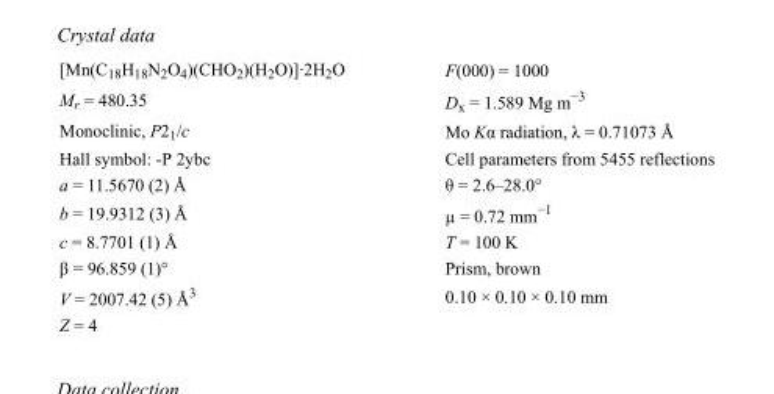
<table><tbody><tr><td>[Mn(C<sub>18</sub>H<sub>18</sub>N<sub>2</sub>O<sub>4</sub>)(CHO<sub>2</sub>)(H<sub>2</sub>O)]·2H<sub>2</sub>O</td><td>F(000) = 1000</td></tr><tr><td>M<sub>r</sub> = 480.35</td><td>D<sub>x</sub> = 1.589 Mg m<sup>−3</sup></td></tr><tr><td>Monoclinic, P2<sub>1</sub>/c</td><td>Mo Kα radiation, λ = 0.71073 Å</td></tr><tr><td>Hall symbol: -P 2ybc</td><td>Cell parameters from 5455 reflections</td></tr><tr><td>a = 11.5670 (2) Å</td><td>θ = 2.6–28.0°</td></tr><tr><td>b = 19.9312 (3) Å</td><td>µ = 0.72 mm<sup>−1</sup></td></tr><tr><td>c = 8.7701 (1) Å</td><td>T = 100 K</td></tr><tr><td>β = 96.859 (1)°</td><td>Prism, brown</td></tr><tr><td>V = 2007.42 (5) Å<sup>3</sup></td><td>0.10 × 0.10 × 0.10 mm</td></tr><tr><td>Z = 4</td><td></td></tr></tbody></table>